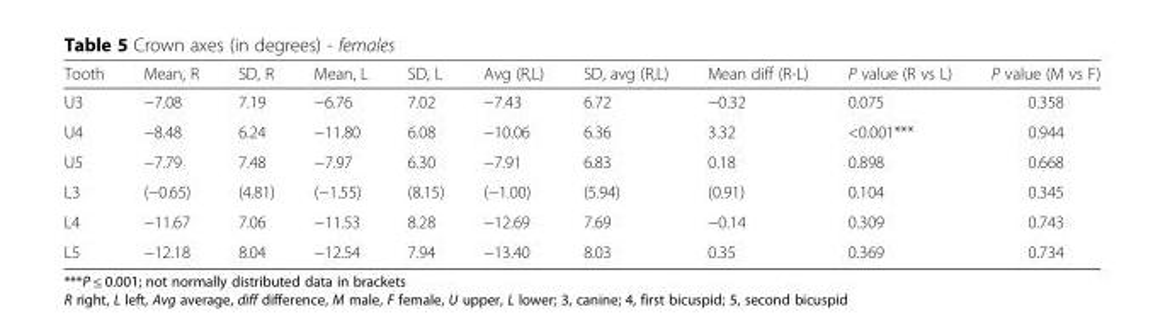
<table><thead><tr><td>Tooth</td><td>Mean, R</td><td>SD, R</td><td>Mean, L</td><td>SD, L</td><td>Avg (R,L)</td><td>SD, avg (R,L)</td><td>Mean diff (R-L)</td><td>P value (R vs L)</td><td>P value (M vs F)</td></tr></thead><tbody><tr><td>U3</td><td>−7.08</td><td>7.19</td><td>−6.76</td><td>7.02</td><td>−7.43</td><td>6.72</td><td>−0.32</td><td>0.075</td><td>0.358</td></tr><tr><td>U4</td><td>−8.48</td><td>6.24</td><td>−11.80</td><td>6.08</td><td>−10.06</td><td>6.36</td><td>3.32</td><td>&lt;0.001***</td><td>0.944</td></tr><tr><td>U5</td><td>−7.79</td><td>7.48</td><td>−7.97</td><td>6.30</td><td>−7.91</td><td>6.83</td><td>0.18</td><td>0.898</td><td>0.668</td></tr><tr><td>L3</td><td>(−0.65)</td><td>(4.81)</td><td>(−1.55)</td><td>(8.15)</td><td>(−1.00)</td><td>(5.94)</td><td>(0.91)</td><td>0.104</td><td>0.345</td></tr><tr><td>L4</td><td>−11.67</td><td>7.06</td><td>−11.53</td><td>8.28</td><td>−12.69</td><td>7.69</td><td>−0.14</td><td>0.309</td><td>0.743</td></tr><tr><td>L5</td><td>−12.18</td><td>8.04</td><td>−12.54</td><td>7.94</td><td>−13.40</td><td>8.03</td><td>0.35</td><td>0.369</td><td>0.734</td></tr></tbody></table>